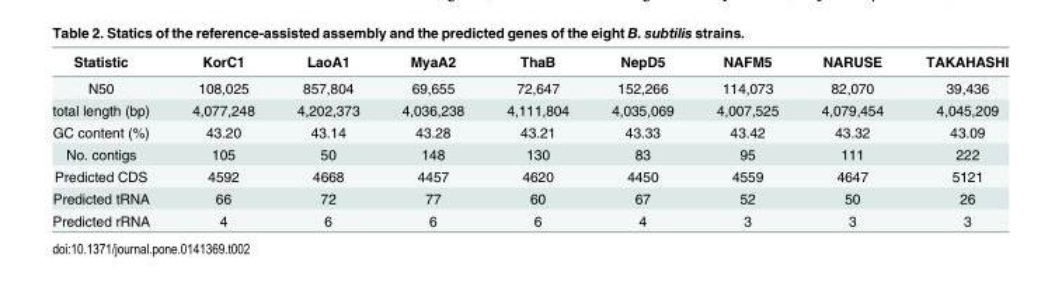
<table><thead><tr><td>Statistic</td><td>KorC1</td><td>LaoA1</td><td>MyaA2</td><td>ThaB</td><td>NepD5</td><td>NAFM5</td><td>NARUSE</td><td>TAKAHASHI</td></tr></thead><tbody><tr><td>N50</td><td>108,025</td><td>857,804</td><td>69,655</td><td>72,647</td><td>152,266</td><td>114,073</td><td>82,070</td><td>39,436</td></tr><tr><td>total length (bp)</td><td>4,077,248</td><td>4,202,373</td><td>4,036,238</td><td>4,111,804</td><td>4,035,069</td><td>4,007,525</td><td>4,079,454</td><td>4,045,209</td></tr><tr><td>GC content (%)</td><td>43.20</td><td>43.14</td><td>43.28</td><td>43.21</td><td>43.33</td><td>43.42</td><td>43.32</td><td>43.09</td></tr><tr><td>No. contigs</td><td>105</td><td>50</td><td>148</td><td>130</td><td>83</td><td>95</td><td>111</td><td>222</td></tr><tr><td>Predicted CDS</td><td>4592</td><td>4668</td><td>4457</td><td>4620</td><td>4450</td><td>4559</td><td>4647</td><td>5121</td></tr><tr><td>Predicted tRNA</td><td>66</td><td>72</td><td>77</td><td>60</td><td>67</td><td>52</td><td>50</td><td>26</td></tr><tr><td>Predicted rRNA</td><td>4</td><td>6</td><td>6</td><td>6</td><td>4</td><td>3</td><td>3</td><td>3</td></tr></tbody></table>